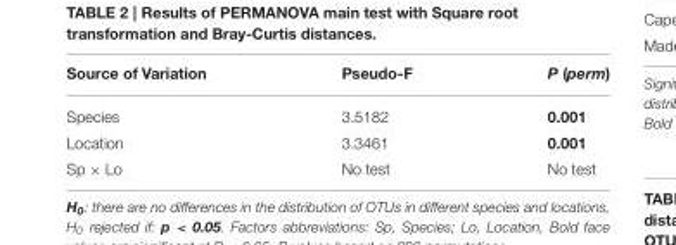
<table><thead><tr><td>Source of Variation</td><td>Pseudo-F</td><td>P (perm)</td></tr></thead><tbody><tr><td>Species</td><td>3.5182</td><td>0.001</td></tr><tr><td>Location</td><td>3.3461</td><td>0.001</td></tr><tr><td>Sp × Lo</td><td>No test</td><td>No test</td></tr></tbody></table>